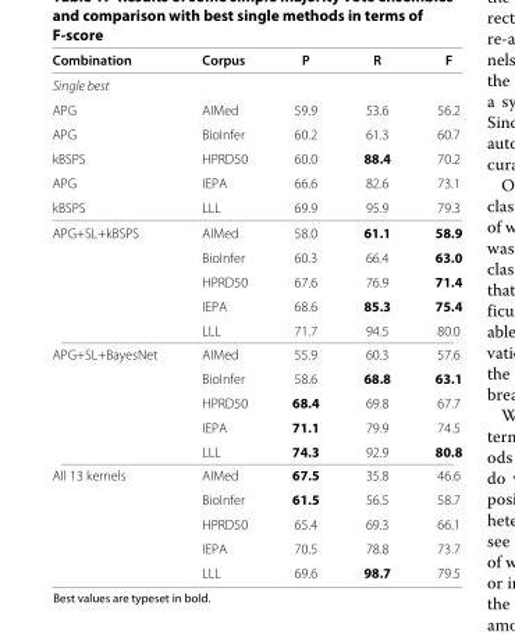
<table><thead><tr><td>Combination</td><td>Corpus</td><td>P</td><td>R</td><td>F</td></tr></thead><tbody><tr><td colspan="5">Single best</td></tr><tr><td>APG</td><td>AIMed</td><td>59.9</td><td>53.6</td><td>56.2</td></tr><tr><td>APG</td><td>BioInfer</td><td>60.2</td><td>61.3</td><td>60.7</td></tr><tr><td>kBSPS</td><td>HPRD50</td><td>60.0</td><td>88.4</td><td>70.2</td></tr><tr><td>APG</td><td>IEPA</td><td>66.6</td><td>82.6</td><td>73.1</td></tr><tr><td>kBSPS</td><td>LLL</td><td>69.9</td><td>95.9</td><td>79.3</td></tr><tr><td rowspan="5">APG+SL+kBSPS</td><td>AIMed</td><td>58.0</td><td>61.1</td><td>58.9</td></tr><tr><td>BioInfer</td><td>60.3</td><td>66.4</td><td>63.0</td></tr><tr><td>HPRD50</td><td>67.6</td><td>76.9</td><td>71.4</td></tr><tr><td>IEPA</td><td>68.6</td><td>85.3</td><td>75.4</td></tr><tr><td>LLL</td><td>71.7</td><td>94.5</td><td>80.0</td></tr><tr><td rowspan="5">APG+SL+BayesNet</td><td>AIMed</td><td>55.9</td><td>60.3</td><td>57.6</td></tr><tr><td>BioInfer</td><td>58.6</td><td>68.8</td><td>63.1</td></tr><tr><td>HPRD50</td><td>68.4</td><td>69.8</td><td>67.7</td></tr><tr><td>IEPA</td><td>71.1</td><td>79.9</td><td>74.5</td></tr><tr><td>LLL</td><td>74.3</td><td>92.9</td><td>80.8</td></tr><tr><td rowspan="5">All 13 kernels</td><td>AIMed</td><td>67.5</td><td>35.8</td><td>46.6</td></tr><tr><td>BioInfer</td><td>61.5</td><td>56.5</td><td>58.7</td></tr><tr><td>HPRD50</td><td>65.4</td><td>69.3</td><td>66.1</td></tr><tr><td>IEPA</td><td>70.5</td><td>78.8</td><td>73.7</td></tr><tr><td>LLL</td><td>69.6</td><td>98.7</td><td>79.5</td></tr></tbody></table>